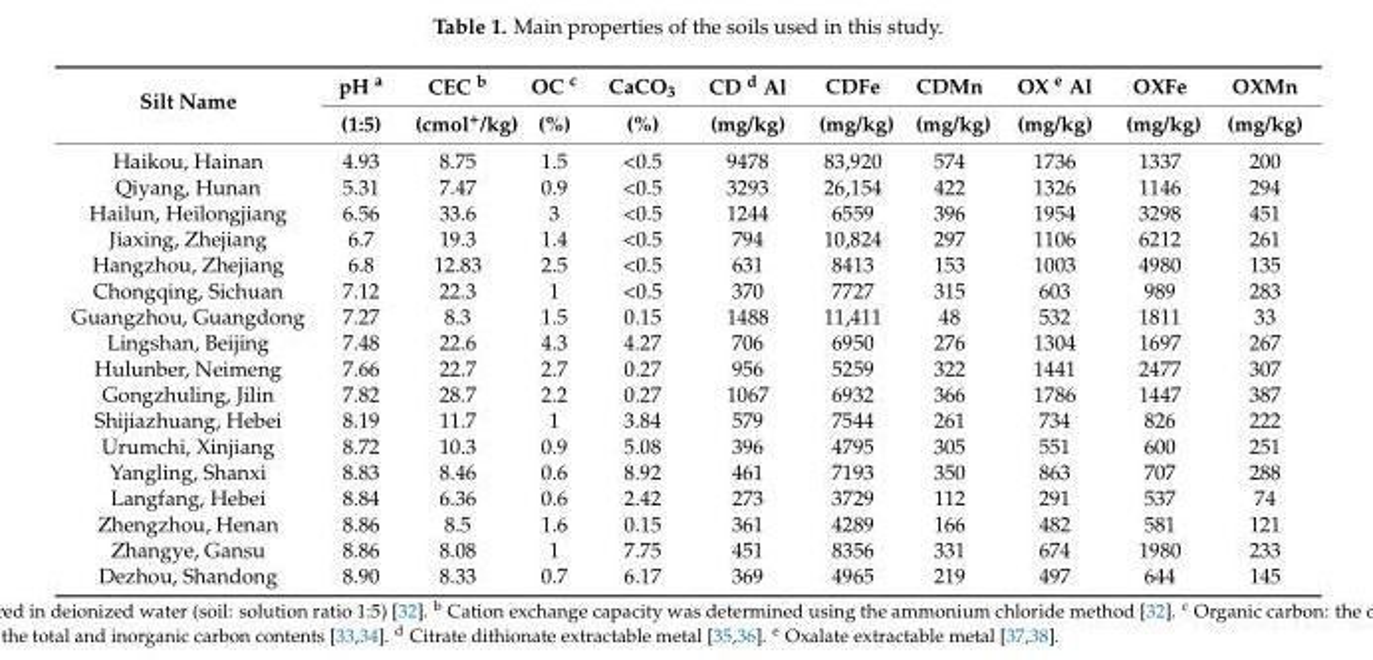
<table><thead><tr><td rowspan="2">Silt Name</td><td rowspan="2">pH <sup>a</sup> (1:5)</td><td rowspan="2">CEC <sup>b</sup> (cmol<sup>+</sup>/kg)</td><td rowspan="2">OC <sup>c</sup> (%)</td><td rowspan="2">CaCO<sub>3</sub> (%)</td><td rowspan="2">CD <sup>d</sup> Al (mg/kg)</td><td rowspan="2">CDFe (mg/kg)</td><td rowspan="2">CDMn (mg/kg)</td><td rowspan="2">OX <sup>e</sup> Al (mg/kg)</td><td rowspan="2">OXFe (mg/kg)</td><td rowspan="2">OXMn (mg/kg)</td></tr><tr></tr></thead><tbody><tr><td>Haikou, Hainan</td><td>4.93</td><td>8.75</td><td>1.5</td><td>&lt;0.5</td><td>9478</td><td>83,920</td><td>574</td><td>1736</td><td>1337</td><td>200</td></tr><tr><td>Qiyang, Hunan</td><td>5.31</td><td>7.47</td><td>0.9</td><td>&lt;0.5</td><td>3293</td><td>26,154</td><td>422</td><td>1326</td><td>1146</td><td>294</td></tr><tr><td>Hailun, Heilongjiang</td><td>6.56</td><td>33.6</td><td>3</td><td>&lt;0.5</td><td>1244</td><td>6559</td><td>396</td><td>1954</td><td>3298</td><td>451</td></tr><tr><td>Jiaxing, Zhejiang</td><td>6.7</td><td>19.3</td><td>1.4</td><td>&lt;0.5</td><td>794</td><td>10,824</td><td>297</td><td>1106</td><td>6212</td><td>261</td></tr><tr><td>Hangzhou, Zhejiang</td><td>6.8</td><td>12.83</td><td>2.5</td><td>&lt;0.5</td><td>631</td><td>8413</td><td>153</td><td>1003</td><td>4980</td><td>135</td></tr><tr><td>Chongqing, Sichuan</td><td>7.12</td><td>22.3</td><td>1</td><td>&lt;0.5</td><td>370</td><td>7727</td><td>315</td><td>603</td><td>989</td><td>283</td></tr><tr><td>Guangzhou, Guangdong</td><td>7.27</td><td>8.3</td><td>1.5</td><td>0.15</td><td>1488</td><td>11,411</td><td>48</td><td>532</td><td>1811</td><td>33</td></tr><tr><td>Lingshan, Beijing</td><td>7.48</td><td>22.6</td><td>4.3</td><td>4.27</td><td>706</td><td>6950</td><td>276</td><td>1304</td><td>1697</td><td>267</td></tr><tr><td>Hulunber, Neimeng</td><td>7.66</td><td>22.7</td><td>2.7</td><td>0.27</td><td>956</td><td>5259</td><td>322</td><td>1441</td><td>2477</td><td>307</td></tr><tr><td>Gongzhuling, Jilin</td><td>7.82</td><td>28.7</td><td>2.2</td><td>0.27</td><td>1067</td><td>6932</td><td>366</td><td>1786</td><td>1447</td><td>387</td></tr><tr><td>Shijiazhuang, Hebei</td><td>8.19</td><td>11.7</td><td>1</td><td>3.84</td><td>579</td><td>7544</td><td>261</td><td>734</td><td>826</td><td>222</td></tr><tr><td>Urumchi, Xinjiang</td><td>8.72</td><td>10.3</td><td>0.9</td><td>5.08</td><td>396</td><td>4795</td><td>305</td><td>551</td><td>600</td><td>251</td></tr><tr><td>Yangling, Shanxi</td><td>8.83</td><td>8.46</td><td>0.6</td><td>8.92</td><td>461</td><td>7193</td><td>350</td><td>863</td><td>707</td><td>288</td></tr><tr><td>Langfang, Hebei</td><td>8.84</td><td>6.36</td><td>0.6</td><td>2.42</td><td>273</td><td>3729</td><td>112</td><td>291</td><td>537</td><td>74</td></tr><tr><td>Zhengzhou, Henan</td><td>8.86</td><td>8.5</td><td>1.6</td><td>0.15</td><td>361</td><td>4289</td><td>166</td><td>482</td><td>581</td><td>121</td></tr><tr><td>Zhangye, Gansu</td><td>8.86</td><td>8.08</td><td>1</td><td>7.75</td><td>451</td><td>8356</td><td>331</td><td>674</td><td>1980</td><td>233</td></tr><tr><td>Dezhou, Shandong</td><td>8.90</td><td>8.33</td><td>0.7</td><td>6.17</td><td>369</td><td>4965</td><td>219</td><td>497</td><td>644</td><td>145</td></tr></tbody></table>